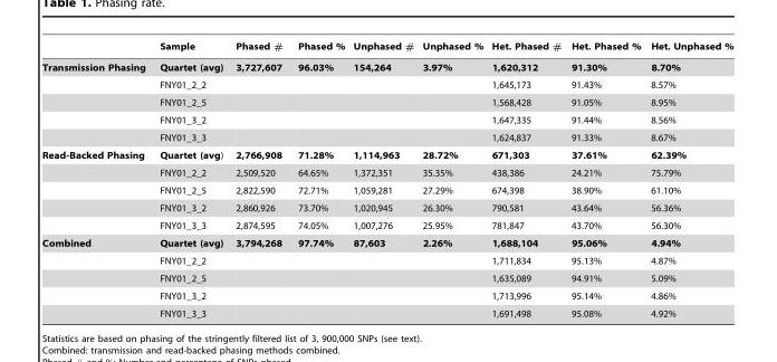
<table><thead><tr><td></td><td>Sample</td><td>Phased #</td><td>Phased %</td><td>Unphased #</td><td>Unphased %</td><td>Het. Phased #</td><td>Het. Phased %</td><td>Het. Unphased %</td></tr></thead><tbody><tr><td rowspan="5">Transmission Phasing</td><td>Quartet (avg)</td><td>3,727,607</td><td>96.03%</td><td>154,264</td><td>3.97%</td><td>1,620,312</td><td>91.30%</td><td>8.70%</td></tr><tr><td>FNY01_2_2</td><td></td><td></td><td></td><td></td><td>1,645,173</td><td>91.43%</td><td>8.57%</td></tr><tr><td>FNY01_2_5</td><td></td><td></td><td></td><td></td><td>1,568,428</td><td>91.05%</td><td>8.95%</td></tr><tr><td>FNY01_3_2</td><td></td><td></td><td></td><td></td><td>1,647,335</td><td>91.44%</td><td>8.56%</td></tr><tr><td>FNY01_3_3</td><td></td><td></td><td></td><td></td><td>1,624,837</td><td>91.33%</td><td>8.67%</td></tr><tr><td rowspan="5">Read-Backed Phasing</td><td>Quartet (avg)</td><td>2,766,908</td><td>71.28%</td><td>1,114,963</td><td>28.72%</td><td>671,303</td><td>37.61%</td><td>62.39%</td></tr><tr><td>FNY01_2_2</td><td>2,509,520</td><td>64.65%</td><td>1,372,351</td><td>35.35%</td><td>438,386</td><td>24.21%</td><td>75.79%</td></tr><tr><td>FNY01_2_5</td><td>2,822,590</td><td>72.71%</td><td>1,059,281</td><td>27.29%</td><td>674,398</td><td>38.90%</td><td>61.10%</td></tr><tr><td>FNY01_3_2</td><td>2,860,926</td><td>73.70%</td><td>1,020,945</td><td>26.30%</td><td>790,581</td><td>43.64%</td><td>56.36%</td></tr><tr><td>FNY01_3_3</td><td>2,874,595</td><td>74.05%</td><td>1,007,276</td><td>25.95%</td><td>781,847</td><td>43.70%</td><td>56.30%</td></tr><tr><td rowspan="5">Combined</td><td>Quartet (avg)</td><td>3,794,268</td><td>97.74%</td><td>87,603</td><td>2.26%</td><td>1,688,104</td><td>95.06%</td><td>4.94%</td></tr><tr><td>FNY01_2_2</td><td></td><td></td><td></td><td></td><td>1,711,834</td><td>95.13%</td><td>4.87%</td></tr><tr><td>FNY01_2_5</td><td></td><td></td><td></td><td></td><td>1,635,089</td><td>94.91%</td><td>5.09%</td></tr><tr><td>FNY01_3_2</td><td></td><td></td><td></td><td></td><td>1,713,996</td><td>95.14%</td><td>4.86%</td></tr><tr><td>FNY01_3_3</td><td></td><td></td><td></td><td></td><td>1,691,498</td><td>95.08%</td><td>4.92%</td></tr></tbody></table>